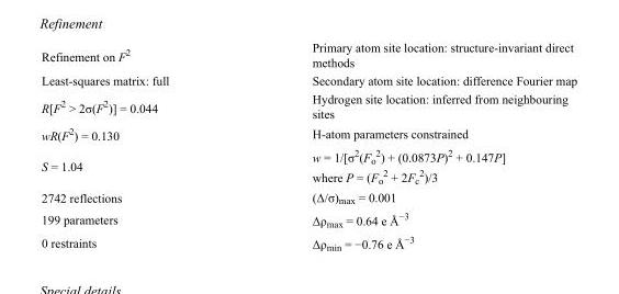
<table><tbody><tr><td>Refinement on F<sup>2</sup></td><td>Primary atom site location: structure-invariant direct methods</td></tr><tr><td>Least-squares matrix: full</td><td>Secondary atom site location: difference Fourier map</td></tr><tr><td>R[F<sup>2</sup> &gt; 2σ(F<sup>2</sup>)] = 0.044</td><td>Hydrogen site location: inferred from neighbouring sites</td></tr><tr><td>wR(F<sup>2</sup>) = 0.130</td><td>H-atom parameters constrained</td></tr><tr><td>S = 1.04</td><td>w = 1/[σ<sup>2</sup>(F<sub>o</sub> <sup>2</sup>) + (0.0873P)<sup>2</sup> + 0.147P] where P = (F<sub>o</sub> <sup>2</sup> + 2F<sub>c</sub> <sup>2</sup>)/3</td></tr><tr><td>2742 reflections</td><td>(Δ/σ)<sub>max</sub> = 0.001</td></tr><tr><td>199 parameters</td><td>Δρ<sub>max</sub> = 0.64 e Å<sup>−3</sup></td></tr><tr><td>0 restraints</td><td>Δρ<sub>min</sub> = −0.76 e Å<sup>−3</sup></td></tr></tbody></table>